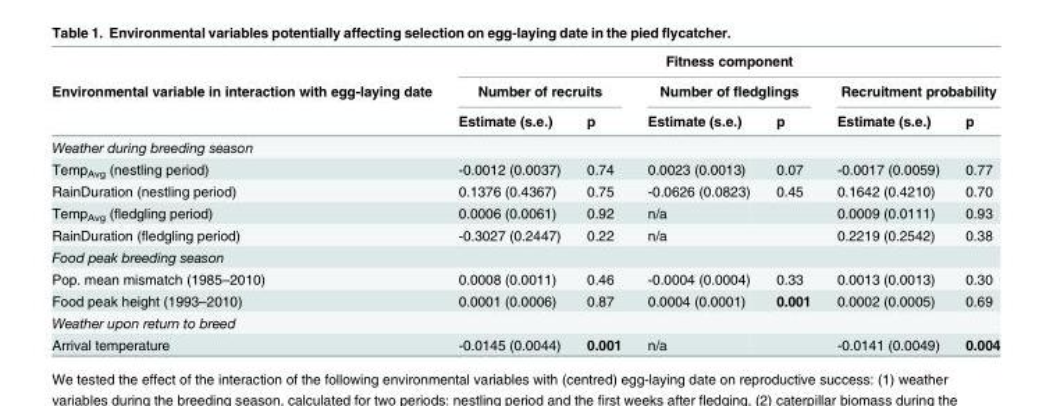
<table><thead><tr><td rowspan="3">Environmental variable in interaction with egg-laying date</td><td colspan="6">Fitness component</td></tr><tr><td colspan="2">Number of recruits</td><td colspan="2">Number of fledglings</td><td colspan="2">Recruitment probability</td></tr><tr><td>Estimate (s.e.)</td><td>p</td><td>Estimate (s.e.)</td><td>p</td><td>Estimate (s.e.)</td><td>p</td></tr></thead><tbody><tr><td colspan="7">Weather during breeding season</td></tr><tr><td>Temp<sub>Avg</sub> (nestling period)</td><td>-0.0012 (0.0037)</td><td>0.74</td><td>0.0023 (0.0013)</td><td>0.07</td><td>-0.0017 (0.0059)</td><td>0.77</td></tr><tr><td>RainDuration (nestling period)</td><td>0.1376 (0.4367)</td><td>0.75</td><td>-0.0626 (0.0823)</td><td>0.45</td><td>0.1642 (0.4210)</td><td>0.70</td></tr><tr><td>Temp<sub>Avg</sub> (fledgling period)</td><td>0.0006 (0.0061)</td><td>0.92</td><td>n/a</td><td></td><td>0.0009 (0.0111)</td><td>0.93</td></tr><tr><td>RainDuration (fledgling period)</td><td>-0.3027 (0.2447)</td><td>0.22</td><td>n/a</td><td></td><td>0.2219 (0.2542)</td><td>0.38</td></tr><tr><td colspan="7">Food peak breeding season</td></tr><tr><td>Pop. mean mismatch (1985–2010)</td><td>0.0008 (0.0011)</td><td>0.46</td><td>-0.0004 (0.0004)</td><td>0.33</td><td>0.0013 (0.0013)</td><td>0.30</td></tr><tr><td>Food peak height (1993–2010)</td><td>0.0001 (0.0006)</td><td>0.87</td><td>0.0004 (0.0001)</td><td>0.001</td><td>0.0002 (0.0005)</td><td>0.69</td></tr><tr><td colspan="7">Weather upon return to breed</td></tr><tr><td>Arrival temperature</td><td>-0.0145 (0.0044)</td><td>0.001</td><td>n/a</td><td></td><td>-0.0141 (0.0049)</td><td>0.004</td></tr></tbody></table>